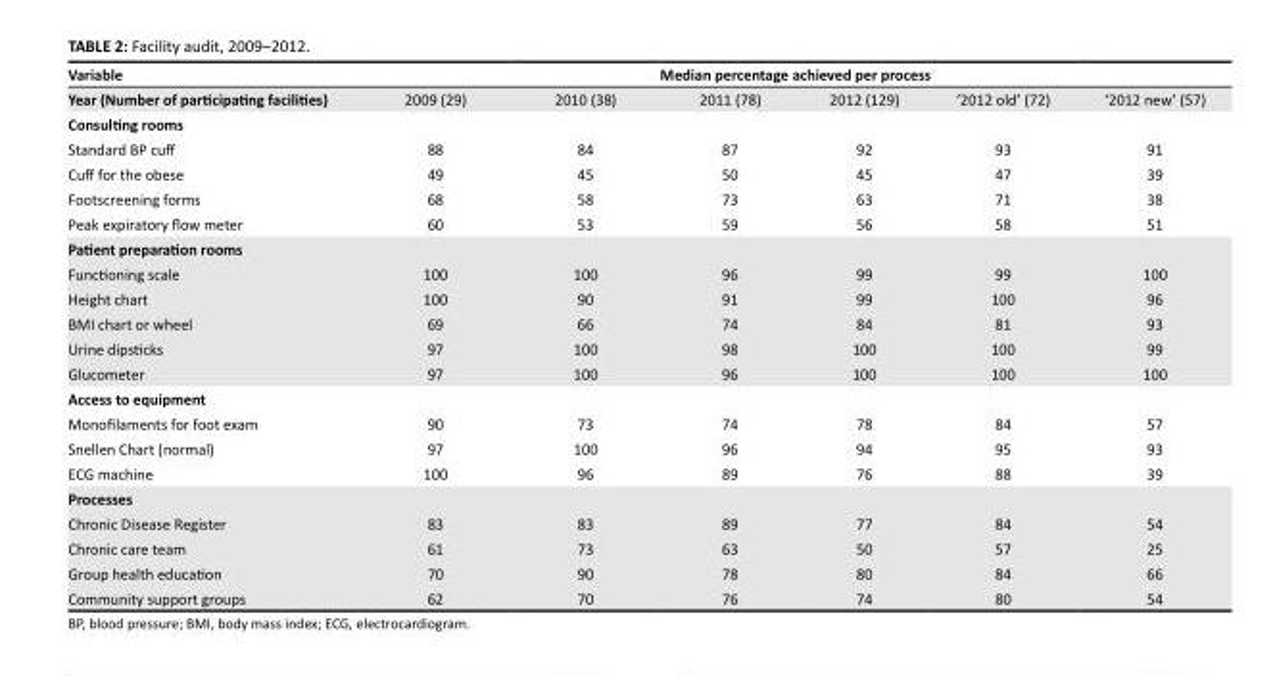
<table><thead><tr><td colspan="3">Variable</td><td colspan="4">Median percentage achieved per process</td></tr><tr><td>Year (Number of participating facilities)</td><td>2009 (29)</td><td>2010 (38)</td><td>2011 (78)</td><td>2012 (129)</td><td>‘2012 old’ (72)</td><td>‘2012 new’ (57)</td></tr></thead><tbody><tr><td colspan="7">Consulting rooms</td></tr><tr><td>Standard BP cuff</td><td>88</td><td>84</td><td>87</td><td>92</td><td>93</td><td>91</td></tr><tr><td>Cuff for the obese</td><td>49</td><td>45</td><td>50</td><td>45</td><td>47</td><td>39</td></tr><tr><td>Footscreening forms</td><td>68</td><td>58</td><td>73</td><td>63</td><td>71</td><td>38</td></tr><tr><td>Peak expiratory flow meter</td><td>60</td><td>53</td><td>59</td><td>56</td><td>58</td><td>51</td></tr><tr><td colspan="7">Patient preparation rooms</td></tr><tr><td>Functioning scale</td><td>100</td><td>100</td><td>96</td><td>99</td><td>99</td><td>100</td></tr><tr><td>Height chart</td><td>100</td><td>90</td><td>91</td><td>99</td><td>100</td><td>96</td></tr><tr><td>BMI chart or wheel</td><td>69</td><td>66</td><td>74</td><td>84</td><td>81</td><td>93</td></tr><tr><td>Urine dipsticks</td><td>97</td><td>100</td><td>98</td><td>100</td><td>100</td><td>99</td></tr><tr><td>Glucometer</td><td>97</td><td>100</td><td>96</td><td>100</td><td>100</td><td>100</td></tr><tr><td colspan="7">Access to equipment</td></tr><tr><td>Monofilaments for foot exam</td><td>90</td><td>73</td><td>74</td><td>78</td><td>84</td><td>57</td></tr><tr><td>Snellen Chart (normal)</td><td>97</td><td>100</td><td>96</td><td>94</td><td>95</td><td>93</td></tr><tr><td>ECG machine</td><td>100</td><td>96</td><td>89</td><td>76</td><td>88</td><td>39</td></tr><tr><td colspan="7">Processes</td></tr><tr><td>Chronic Disease Register</td><td>83</td><td>83</td><td>89</td><td>77</td><td>84</td><td>54</td></tr><tr><td>Chronic care team</td><td>61</td><td>73</td><td>63</td><td>50</td><td>57</td><td>25</td></tr><tr><td>Group health education</td><td>70</td><td>90</td><td>78</td><td>80</td><td>84</td><td>66</td></tr><tr><td>Community support groups</td><td>62</td><td>70</td><td>76</td><td>74</td><td>80</td><td>54</td></tr></tbody></table>